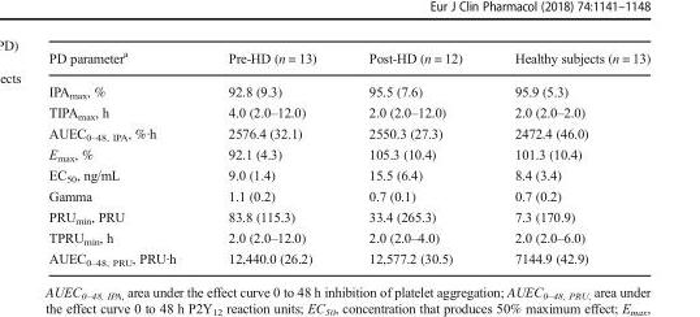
<table><thead><tr><td>PD parameter<sup>a</sup></td><td>Pre-HD (n = 13)</td><td>Post-HD (n = 12)</td><td>Healthy subjects (n = 13)</td></tr></thead><tbody><tr><td>IPA<sub>max</sub>, %</td><td>92.8 (9.3)</td><td>95.5 (7.6)</td><td>95.9 (5.3)</td></tr><tr><td>TIPA<sub>max</sub>, h</td><td>4.0 (2.0–12.0)</td><td>2.0 (2.0–12.0)</td><td>2.0 (2.0–2.0)</td></tr><tr><td>AUEC<sub>0–48, IPA</sub>, %·h</td><td>2576.4 (32.1)</td><td>2550.3 (27.3)</td><td>2472.4 (46.0)</td></tr><tr><td>E<sub>max</sub>, %</td><td>92.1 (4.3)</td><td>105.3 (10.4)</td><td>101.3 (10.4)</td></tr><tr><td>EC<sub>50</sub>, ng/mL</td><td>9.0 (1.4)</td><td>15.5 (6.4)</td><td>8.4 (3.4)</td></tr><tr><td>Gamma</td><td>1.1 (0.2)</td><td>0.7 (0.1)</td><td>0.7 (0.2)</td></tr><tr><td>PRU<sub>min</sub>, PRU</td><td>83.8 (115.3)</td><td>33.4 (265.3)</td><td>7.3 (170.9)</td></tr><tr><td>TPRU<sub>min</sub>, h</td><td>2.0 (2.0–12.0)</td><td>2.0 (2.0–4.0)</td><td>2.0 (2.0–6.0)</td></tr><tr><td>AUEC<sub>0–48, PRU</sub>, PRU·h</td><td>12,440.0 (26.2)</td><td>12,577.2 (30.5)</td><td>7144.9 (42.9)</td></tr></tbody></table>